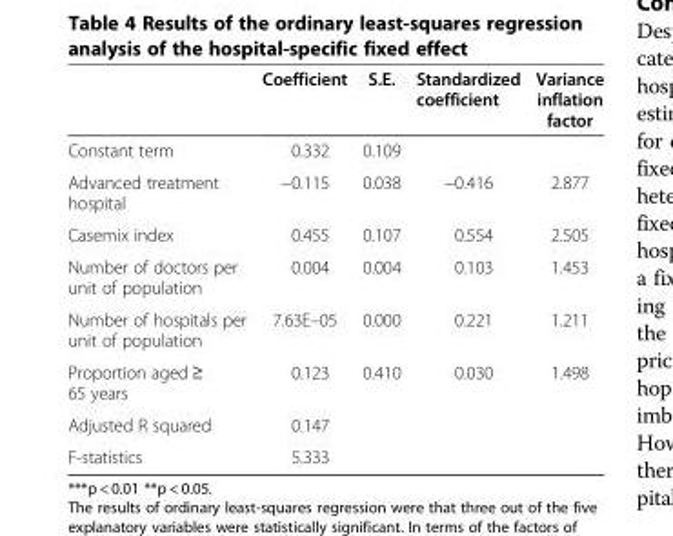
<table><thead><tr><td></td><td>Coefficient</td><td>S.E.</td><td>Standardized coefficient</td><td>Variance inflation factor</td></tr></thead><tbody><tr><td>Constant term</td><td>0.332</td><td>0.109</td><td></td><td></td></tr><tr><td>Advanced treatment hospital</td><td>−0.115</td><td>0.038</td><td>−0.416</td><td>2.877</td></tr><tr><td>Casemix index</td><td>0.455</td><td>0.107</td><td>0.554</td><td>2.505</td></tr><tr><td>Number of doctors per unit of population</td><td>0.004</td><td>0.004</td><td>0.103</td><td>1.453</td></tr><tr><td>Number of hospitals per unit of population</td><td>7.63E–05</td><td>0.000</td><td>0.221</td><td>1.211</td></tr><tr><td>Proportion aged ≥ 65 years</td><td>0.123</td><td>0.410</td><td>0.030</td><td>1.498</td></tr><tr><td>Adjusted R squared</td><td>0.147</td><td></td><td></td><td></td></tr><tr><td>F-statistics</td><td>5.333</td><td></td><td></td><td></td></tr></tbody></table>